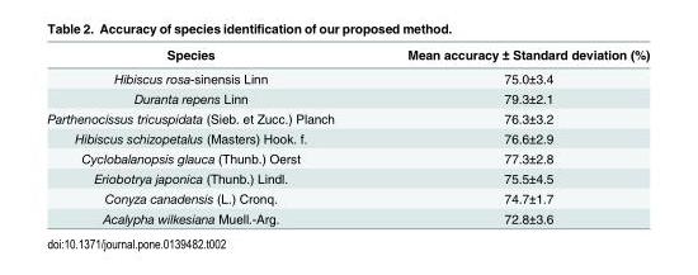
<table><thead><tr><td>Species</td><td>Mean accuracy ± Standard deviation (%)</td></tr></thead><tbody><tr><td>Hibiscus rosa-sinensis Linn</td><td>75.0±3.4</td></tr><tr><td>Duranta repens Linn</td><td>79.3±2.1</td></tr><tr><td>Parthenocissus tricuspidata (Sieb. et Zucc.) Planch</td><td>76.3±3.2</td></tr><tr><td>Hibiscus schizopetalus (Masters) Hook. f.</td><td>76.6±2.9</td></tr><tr><td>Cyclobalanopsis glauca (Thunb.) Oerst</td><td>77.3±2.8</td></tr><tr><td>Eriobotrya japonica (Thunb.) Lindl.</td><td>75.5±4.5</td></tr><tr><td>Conyza canadensis (L.) Cronq.</td><td>74.7±1.7</td></tr><tr><td>Acalypha wilkesiana Muell.-Arg.</td><td>72.8±3.6</td></tr></tbody></table>